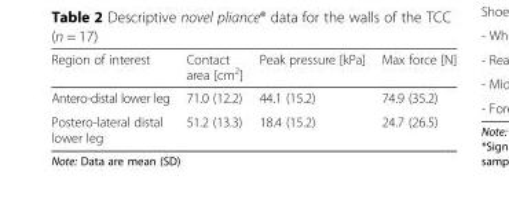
<table><thead><tr><td>Region of interest</td><td>Contact area [cm<sup>2</sup>]</td><td>Peak pressure [kPa]</td><td>Max force [N]</td></tr></thead><tbody><tr><td>Antero-distal lower leg</td><td>71.0 (12.2)</td><td>44.1 (15.2)</td><td>74.9 (35.2)</td></tr><tr><td>Postero-lateral distal lower leg</td><td>51.2 (13.3)</td><td>18.4 (15.2)</td><td>24.7 (26.5)</td></tr></tbody></table>